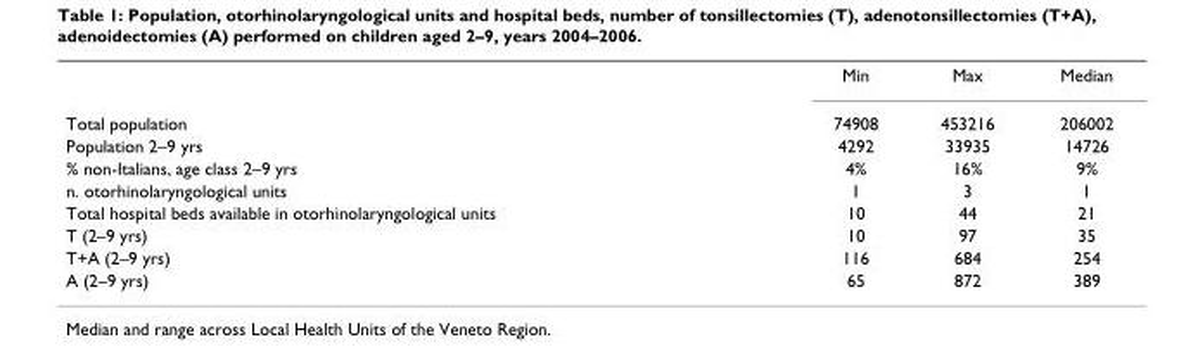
<table><thead><tr><td></td><td>Min</td><td>Max</td><td>Median</td></tr></thead><tbody><tr><td>Total population</td><td>74908</td><td>453216</td><td>206002</td></tr><tr><td>Population 2–9 yrs</td><td>4292</td><td>33935</td><td>14726</td></tr><tr><td>% non-Italians, age class 2–9 yrs</td><td>4%</td><td>16%</td><td>9%</td></tr><tr><td>n. otorhinolaryngological units</td><td>1</td><td>3</td><td>1</td></tr><tr><td>Total hospital beds available in otorhinolaryngological units</td><td>10</td><td>44</td><td>21</td></tr><tr><td>T (2–9 yrs)</td><td>10</td><td>97</td><td>35</td></tr><tr><td>T+A (2–9 yrs)</td><td>116</td><td>684</td><td>254</td></tr><tr><td>A (2–9 yrs)</td><td>65</td><td>872</td><td>389</td></tr></tbody></table>